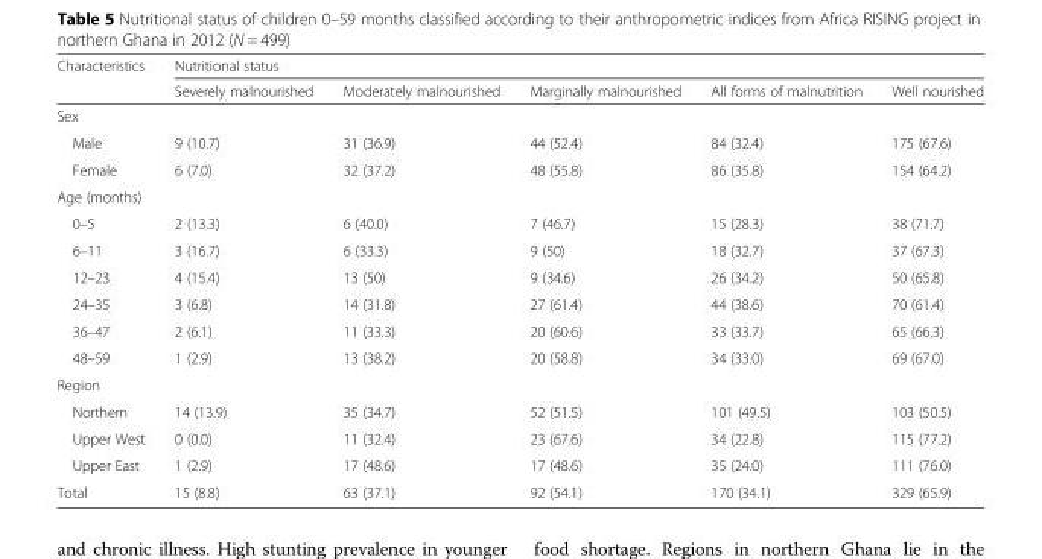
<table><thead><tr><td rowspan="2">Characteristics</td><td colspan="5">Nutritional status</td></tr><tr><td>Severely malnourished</td><td>Moderately malnourished</td><td>Marginally malnourished</td><td>All forms of malnutrition</td><td>Well nourished</td></tr></thead><tbody><tr><td colspan="6">Sex</td></tr><tr><td>Male</td><td>9 (10.7)</td><td>31 (36.9)</td><td>44 (52.4)</td><td>84 (32.4)</td><td>175 (67.6)</td></tr><tr><td>Female</td><td>6 (7.0)</td><td>32 (37.2)</td><td>48 (55.8)</td><td>86 (35.8)</td><td>154 (64.2)</td></tr><tr><td colspan="6">Age (months)</td></tr><tr><td>0–5</td><td>2 (13.3)</td><td>6 (40.0)</td><td>7 (46.7)</td><td>15 (28.3)</td><td>38 (71.7)</td></tr><tr><td>6–11</td><td>3 (16.7)</td><td>6 (33.3)</td><td>9 (50)</td><td>18 (32.7)</td><td>37 (67.3)</td></tr><tr><td>12–23</td><td>4 (15.4)</td><td>13 (50)</td><td>9 (34.6)</td><td>26 (34.2)</td><td>50 (65.8)</td></tr><tr><td>24–35</td><td>3 (6.8)</td><td>14 (31.8)</td><td>27 (61.4)</td><td>44 (38.6)</td><td>70 (61.4)</td></tr><tr><td>36–47</td><td>2 (6.1)</td><td>11 (33.3)</td><td>20 (60.6)</td><td>33 (33.7)</td><td>65 (66.3)</td></tr><tr><td>48–59</td><td>1 (2.9)</td><td>13 (38.2)</td><td>20 (58.8)</td><td>34 (33.0)</td><td>69 (67.0)</td></tr><tr><td colspan="6">Region</td></tr><tr><td>Northern</td><td>14 (13.9)</td><td>35 (34.7)</td><td>52 (51.5)</td><td>101 (49.5)</td><td>103 (50.5)</td></tr><tr><td>Upper West</td><td>0 (0.0)</td><td>11 (32.4)</td><td>23 (67.6)</td><td>34 (22.8)</td><td>115 (77.2)</td></tr><tr><td>Upper East</td><td>1 (2.9)</td><td>17 (48.6)</td><td>17 (48.6)</td><td>35 (24.0)</td><td>111 (76.0)</td></tr><tr><td>Total</td><td>15 (8.8)</td><td>63 (37.1)</td><td>92 (54.1)</td><td>170 (34.1)</td><td>329 (65.9)</td></tr></tbody></table>